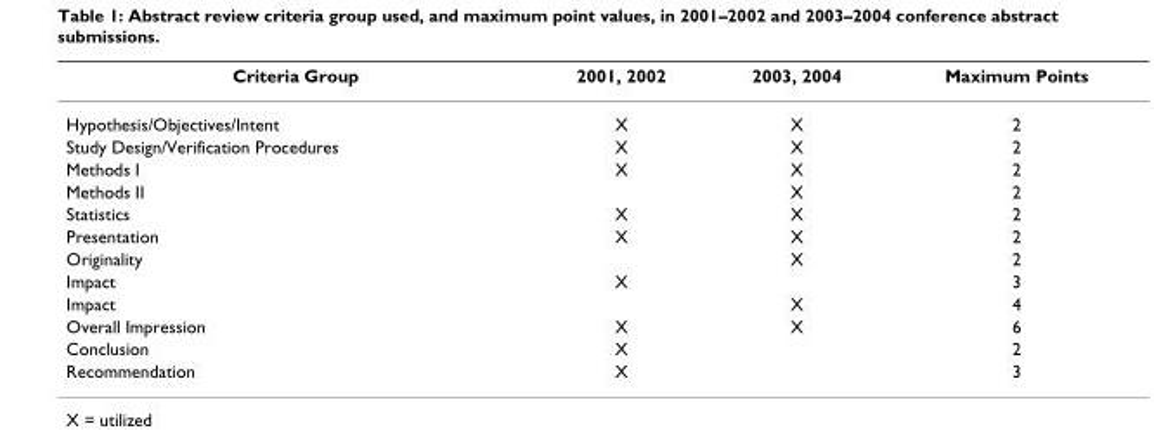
<table><thead><tr><td>Criteria Group</td><td>2001, 2002</td><td>2003, 2004</td><td>Maximum Points</td></tr></thead><tbody><tr><td>Hypothesis/Objectives/Intent</td><td>X</td><td>X</td><td>2</td></tr><tr><td>Study Design/Verification Procedures</td><td>X</td><td>X</td><td>2</td></tr><tr><td>Methods I</td><td>X</td><td>X</td><td>2</td></tr><tr><td>Methods II</td><td></td><td>X</td><td>2</td></tr><tr><td>Statistics</td><td>X</td><td>X</td><td>2</td></tr><tr><td>Presentation</td><td>X</td><td>X</td><td>2</td></tr><tr><td>Originality</td><td></td><td>X</td><td>2</td></tr><tr><td>Impact</td><td>X</td><td></td><td>3</td></tr><tr><td>Impact</td><td></td><td>X</td><td>4</td></tr><tr><td>Overall Impression</td><td>X</td><td>X</td><td>6</td></tr><tr><td>Conclusion</td><td>X</td><td></td><td>2</td></tr><tr><td>Recommendation</td><td>X</td><td></td><td>3</td></tr></tbody></table>